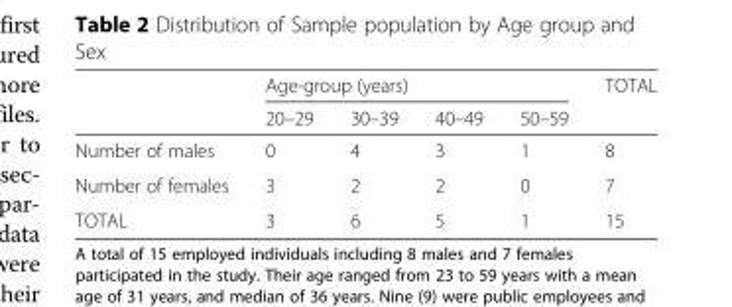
<table><thead><tr><td rowspan="2"></td><td colspan="4">Age-group (years)</td><td rowspan="2">TOTAL</td></tr><tr><td>20–29</td><td>30–39</td><td>40–49</td><td>50–59</td></tr></thead><tbody><tr><td>Number of males</td><td>0</td><td>4</td><td>3</td><td>1</td><td>8</td></tr><tr><td>Number of females</td><td>3</td><td>2</td><td>2</td><td>0</td><td>7</td></tr><tr><td>TOTAL</td><td>3</td><td>6</td><td>5</td><td>1</td><td>15</td></tr></tbody></table>